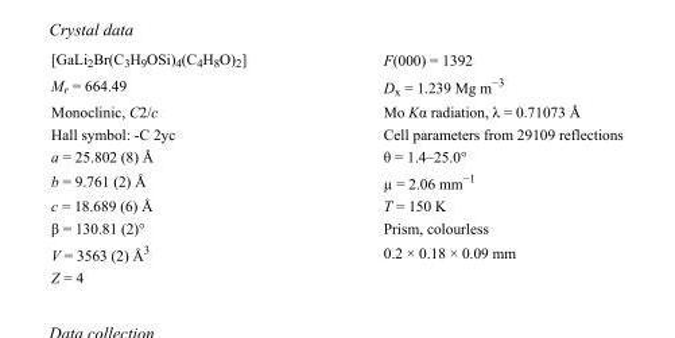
<table><tbody><tr><td>[GaLi<sub>2</sub>Br(C<sub>3</sub>H<sub>9</sub>OSi)<sub>4</sub>(C<sub>4</sub>H<sub>8</sub>O)<sub>2</sub>]</td><td>F(000) = 1392</td></tr><tr><td>M<sub>r</sub> = 664.49</td><td>D<sub>x</sub> = 1.239 Mg m<sup>−3</sup></td></tr><tr><td>Monoclinic, C2/c</td><td>Mo Kα radiation, λ = 0.71073 Å</td></tr><tr><td>Hall symbol: -C 2yc</td><td>Cell parameters from 29109 reflections</td></tr><tr><td>a = 25.802 (8) Å</td><td>θ = 1.4–25.0°</td></tr><tr><td>b = 9.761 (2) Å</td><td>µ = 2.06 mm<sup>−1</sup></td></tr><tr><td>c = 18.689 (6) Å</td><td>T = 150 K</td></tr><tr><td>β = 130.81 (2)°</td><td>Prism, colourless</td></tr><tr><td>V = 3563 (2) Å<sup>3</sup></td><td>0.2 × 0.18 × 0.09 mm</td></tr><tr><td>Z = 4</td><td></td></tr></tbody></table>